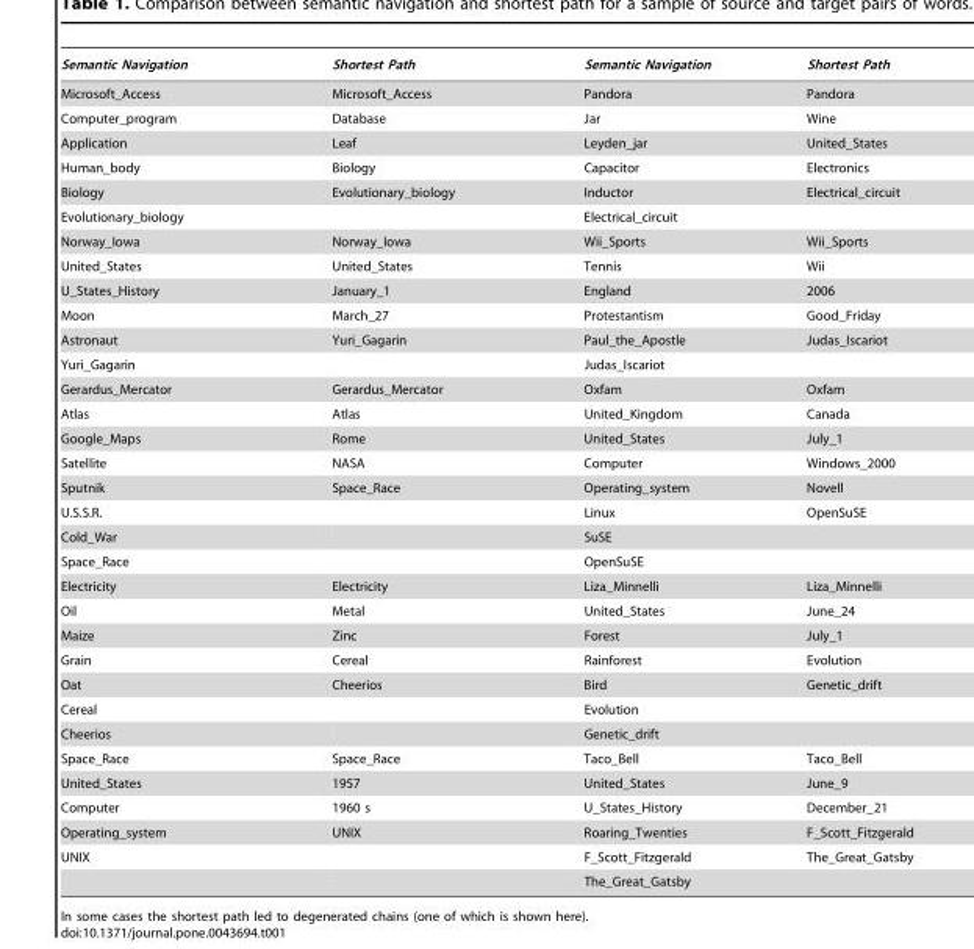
<table><thead><tr><td>Semantic Navigation</td><td>Shortest Path</td><td>Semantic Navigation</td><td>Shortest Path</td></tr></thead><tbody><tr><td>Microsoft_Access</td><td>Microsoft_Access</td><td>Pandora</td><td>Pandora</td></tr><tr><td>Computer_program</td><td>Database</td><td>Jar</td><td>Wine</td></tr><tr><td>Application</td><td>Leaf</td><td>Leyden_jar</td><td>United_States</td></tr><tr><td>Human_body</td><td>Biology</td><td>Capacitor</td><td>Electronics</td></tr><tr><td>Biology</td><td>Evolutionary_biology</td><td>Inductor</td><td>Electrical_circuit</td></tr><tr><td>Evolutionary_biology</td><td></td><td>Electrical_circuit</td><td></td></tr><tr><td>Norway_Iowa</td><td>Norway_Iowa</td><td>Wii_Sports</td><td>Wii_Sports</td></tr><tr><td>United_States</td><td>United_States</td><td>Tennis</td><td>Wii</td></tr><tr><td>U_States_History</td><td>January_1</td><td>England</td><td>2006</td></tr><tr><td>Moon</td><td>March_27</td><td>Protestantism</td><td>Good_Friday</td></tr><tr><td>Astronaut</td><td>Yuri_Gagarin</td><td>Paul_the_Apostle</td><td>Judas_Iscariot</td></tr><tr><td>Yuri_Gagarin</td><td></td><td>Judas_Iscariot</td><td></td></tr><tr><td>Gerardus_Mercator</td><td>Gerardus_Mercator</td><td>Oxfam</td><td>Oxfam</td></tr><tr><td>Atlas</td><td>Atlas</td><td>United_Kingdom</td><td>Canada</td></tr><tr><td>Google_Maps</td><td>Rome</td><td>United_States</td><td>July_1</td></tr><tr><td>Satellite</td><td>NASA</td><td>Computer</td><td>Windows_2000</td></tr><tr><td>Sputnik</td><td>Space_Race</td><td>Operating_system</td><td>Novell</td></tr><tr><td>U.S.S.R.</td><td></td><td>Linux</td><td>OpenSuSE</td></tr><tr><td>Cold_War</td><td></td><td>SuSE</td><td></td></tr><tr><td>Space_Race</td><td></td><td>OpenSuSE</td><td></td></tr><tr><td>Electricity</td><td>Electricity</td><td>Liza_Minnelli</td><td>Liza_Minnelli</td></tr><tr><td>Oil</td><td>Metal</td><td>United_States</td><td>June_24</td></tr><tr><td>Maize</td><td>Zinc</td><td>Forest</td><td>July_1</td></tr><tr><td>Grain</td><td>Cereal</td><td>Rainforest</td><td>Evolution</td></tr><tr><td>Oat</td><td>Cheerios</td><td>Bird</td><td>Genetic_drift</td></tr><tr><td>Cereal</td><td></td><td>Evolution</td><td></td></tr><tr><td>Cheerios</td><td></td><td>Genetic_drift</td><td></td></tr><tr><td>Space_Race</td><td>Space_Race</td><td>Taco_Bell</td><td>Taco_Bell</td></tr><tr><td>United_States</td><td>1957</td><td>United_States</td><td>June_9</td></tr><tr><td>Computer</td><td>1960 s</td><td>U_States_History</td><td>December_21</td></tr><tr><td>Operating_system</td><td>UNIX</td><td>Roaring_Twenties</td><td>F_Scott_Fitzgerald</td></tr><tr><td rowspan="2">UNIX</td><td></td><td>F_Scott_Fitzgerald</td><td>The_Great_Gatsby</td></tr><tr><td></td><td>The_Great_Gatsby</td><td></td></tr></tbody></table>